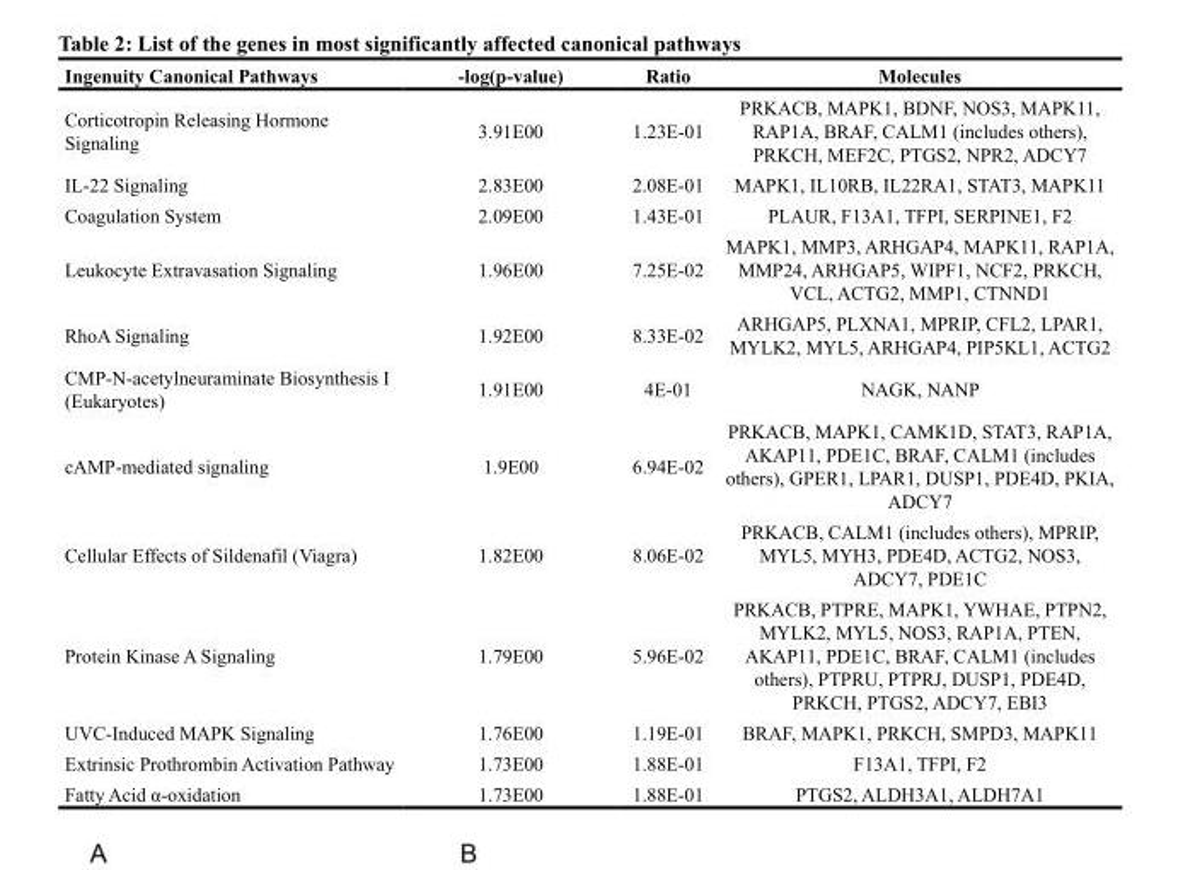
<table><thead><tr><td>Ingenuity Canonical Pathways</td><td>-log(p-value)</td><td>Ratio</td><td>Molecules</td></tr></thead><tbody><tr><td>Corticotropin Releasing Hormone Signaling</td><td>3.91E00</td><td>1.23E-01</td><td>PRKACB, MAPK1, BDNF, NOS3, MAPK11, RAP1A, BRAF, CALM1 (includes others), PRKCH, MEF2C, PTGS2, NPR2, ADCY7</td></tr><tr><td>IL-22 Signaling</td><td>2.83E00</td><td>2.08E-01</td><td>MAPK1, IL10RB, IL22RA1, STAT3, MAPK11</td></tr><tr><td>Coagulation System</td><td>2.09E00</td><td>1.43E-01</td><td>PLAUR, F13A1, TFPI, SERPINE1, F2</td></tr><tr><td>Leukocyte Extravasation Signaling</td><td>1.96E00</td><td>7.25E-02</td><td>MAPK1, MMP3, ARHGAP4, MAPK11, RAP1A, MMP24, ARHGAP5, WIPF1, NCF2, PRKCH, VCL, ACTG2, MMP1, CTNND1</td></tr><tr><td>RhoA Signaling</td><td>1.92E00</td><td>8.33E-02</td><td>ARHGAP5, PLXNA1, MPRIP, CFL2, LPAR1, MYLK2, MYL5, ARHGAP4, PIP5KL1, ACTG2</td></tr><tr><td>CMP-N-acetylneuraminate Biosynthesis I (Eukaryotes)</td><td>1.91E00</td><td>4E-01</td><td>NAGK, NANP</td></tr><tr><td>cAMP-mediated signaling</td><td>1.9E00</td><td>6.94E-02</td><td>PRKACB, MAPK1, CAMK1D, STAT3, RAP1A, AKAP11, PDE1C, BRAF, CALM1 (includes others), GPER1, LPAR1, DUSP1, PDE4D, PKIA, ADCY7</td></tr><tr><td>Cellular Effects of Sildenafil (Viagra)</td><td>1.82E00</td><td>8.06E-02</td><td>PRKACB, CALM1 (includes others), MPRIP, MYL5, MYH3, PDE4D, ACTG2, NOS3, ADCY7, PDE1C</td></tr><tr><td>Protein Kinase A Signaling</td><td>1.79E00</td><td>5.96E-02</td><td>PRKACB, PTPRE, MAPK1, YWHAE, PTPN2, MYLK2, MYL5, NOS3, RAP1A, PTEN, AKAP11, PDE1C, BRAF, CALM1 (includes others), PTPRU, PTPRJ, DUSP1, PDE4D, PRKCH, PTGS2, ADCY7, EBI3</td></tr><tr><td>UVC-Induced MAPK Signaling</td><td>1.76E00</td><td>1.19E-01</td><td>BRAF, MAPK1, PRKCH, SMPD3, MAPK11</td></tr><tr><td>Extrinsic Prothrombin Activation Pathway</td><td>1.73E00</td><td>1.88E-01</td><td>F13A1, TFPI, F2</td></tr><tr><td>Fatty Acid α-oxidation</td><td>1.73E00</td><td>1.88E-01</td><td>PTGS2, ALDH3A1, ALDH7A1</td></tr></tbody></table>